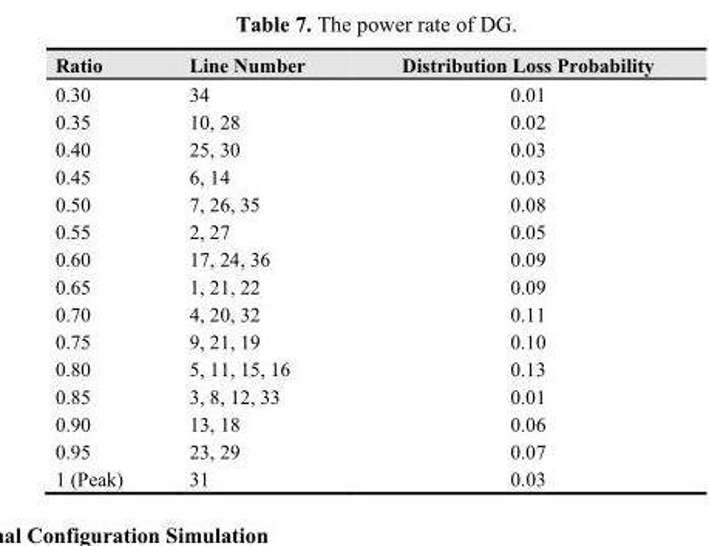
<table><thead><tr><td>Ratio</td><td>Line Number</td><td>Distribution Loss Probability</td></tr></thead><tbody><tr><td>0.30</td><td>34</td><td>0.01</td></tr><tr><td>0.35</td><td>10, 28</td><td>0.02</td></tr><tr><td>0.40</td><td>25, 30</td><td>0.03</td></tr><tr><td>0.45</td><td>6, 14</td><td>0.03</td></tr><tr><td>0.50</td><td>7, 26, 35</td><td>0.08</td></tr><tr><td>0.55</td><td>2, 27</td><td>0.05</td></tr><tr><td>0.60</td><td>17, 24, 36</td><td>0.09</td></tr><tr><td>0.65</td><td>1, 21, 22</td><td>0.09</td></tr><tr><td>0.70</td><td>4, 20, 32</td><td>0.11</td></tr><tr><td>0.75</td><td>9, 21, 19</td><td>0.10</td></tr><tr><td>0.80</td><td>5, 11, 15, 16</td><td>0.13</td></tr><tr><td>0.85</td><td>3, 8, 12, 33</td><td>0.01</td></tr><tr><td>0.90</td><td>13, 18</td><td>0.06</td></tr><tr><td>0.95</td><td>23, 29</td><td>0.07</td></tr><tr><td>1 (Peak)</td><td>31</td><td>0.03</td></tr></tbody></table>